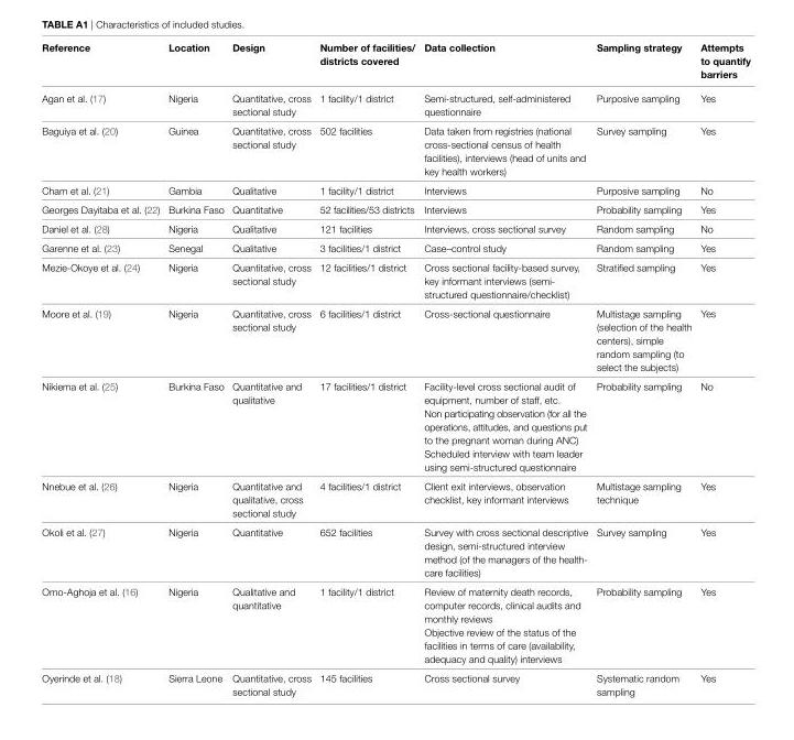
<table><thead><tr><td>Reference</td><td>Location</td><td>Design</td><td>Number of facilities/ districts covered</td><td>Data collection</td><td>Sampling strategy</td><td>attempts to quantify barriers</td></tr></thead><tbody><tr><td>Agan et al. (17)</td><td>Nigeria</td><td>Quantitative, cross sectional study</td><td>1 facility/1 district</td><td>Semi-structured, self-administered questionnaire</td><td>Purposive sampling</td><td>Yes</td></tr><tr><td>Baguiya et al. (20)</td><td>Guinea</td><td>Quantitative, cross sectional study</td><td>502 facilities</td><td>Data taken from registries (national cross-sectional census of health facilities), interviews (head of units and key health workers)</td><td>Survey sampling</td><td>Yes</td></tr><tr><td>Cham et al. (21)</td><td>Gambia</td><td>Qualitative</td><td>1 facility/1 district</td><td>Interviews</td><td>Purposive sampling</td><td>No</td></tr><tr><td>Georges Dayitaba et al. (22)</td><td>Burkina Faso</td><td>Quantitative</td><td>52 facilities/53 districts</td><td>Interviews</td><td>Probability sampling</td><td>Yes</td></tr><tr><td>Daniel et al. (28)</td><td>Nigeria</td><td>Qualitative</td><td>121 facilities</td><td>Interviews, cross sectional survey</td><td>Random sampling</td><td>No</td></tr><tr><td>Garenne et al. (23)</td><td>Senegal</td><td>Qualitative</td><td>3 facilities/1 district</td><td>Case–control study</td><td>Random sampling</td><td>Yes</td></tr><tr><td>Mezie-Okoye et al. (24)</td><td>Nigeria</td><td>Quantitative, cross sectional study</td><td>12 facilities/1 district</td><td>Cross sectional facility-based survey, key informant interviews (semi- structured questionnaire/checklist)</td><td>Stratified sampling</td><td>Yes</td></tr><tr><td>Moore et al. (19)</td><td>Nigeria</td><td>Quantitative, cross sectional study</td><td>6 facilities/1 district</td><td>Cross-sectional questionnaire</td><td>Multistage sampling (selection of the health centers), simple random sampling (to select the subjects)</td><td>Yes</td></tr><tr><td>Nikiema et al. (25)</td><td>Burkina Faso</td><td>Quantitative and qualitative</td><td>17 facilities/1 district</td><td>Facility-level cross sectional audit of equipment, number of staff, etc. Non participating observation (for all the operations, attitudes, and questions put to the pregnant woman during ANC) Scheduled interview with team leader using semi-structured questionnaire</td><td>Probability sampling</td><td>No</td></tr><tr><td>Nnebue et al. (26)</td><td>Nigeria</td><td>Quantitative and qualitative, cross sectional study</td><td>4 facilities/1 district</td><td>Client exit interviews, observation checklist, key informant interviews</td><td>Multistage sampling technique</td><td>Yes</td></tr><tr><td>Okoli et al. (27)</td><td>Nigeria</td><td>Quantitative</td><td>652 facilities</td><td>Survey with cross sectional descriptive design, semi-structured interview method (of the managers of the health- care facilities)</td><td>Survey sampling</td><td>Yes</td></tr><tr><td>Omo-Aghoja et al. (16)</td><td>Nigeria</td><td>Qualitative and quantitative</td><td>1 facility/1 district</td><td>Review of maternity death records, computer records, clinical audits and monthly reviews Objective review of the status of the facilities in terms of care (availability, adequacy and quality) interviews</td><td>Probability sampling</td><td>Yes</td></tr><tr><td>Oyerinde et al. (18)</td><td>Sierra Leone</td><td>Quantitative, cross sectional study</td><td>145 facilities</td><td>Cross sectional survey</td><td>Systematic random sampling</td><td>Yes</td></tr></tbody></table>